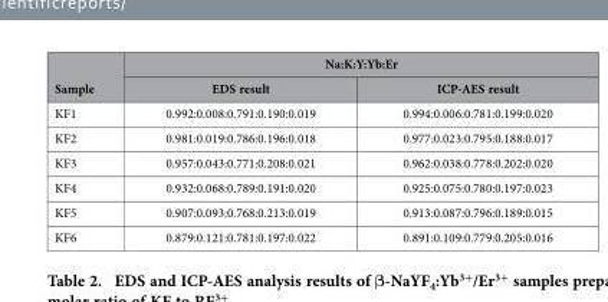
<table><thead><tr><td rowspan="2">Sample</td><td colspan="2">Na:K:Y:Yb:Er</td></tr><tr><td>EDS result</td><td>ICP-AES result</td></tr></thead><tbody><tr><td>KF1</td><td>0.992:0.008:0.791:0.190:0.019</td><td>0.994:0.006:0.781:0.199:0.020</td></tr><tr><td>KF2</td><td>0.981:0.019:0.786:0.196:0.018</td><td>0.977:0.023:0.795:0.188:0.017</td></tr><tr><td>KF3</td><td>0.957:0.043:0.771:0.208:0.021</td><td>0.962:0.038:0.778:0.202:0.020</td></tr><tr><td>KF4</td><td>0.932:0.068:0.789:0.191:0.020</td><td>0.925:0.075:0.780:0.197:0.023</td></tr><tr><td>KF5</td><td>0.907:0.093:0.768:0.213:0.019</td><td>0.913:0.087:0.796:0.189:0.015</td></tr><tr><td>KF6</td><td>0.879:0.121:0.781:0.197:0.022</td><td>0.891:0.109:0.779:0.205:0.016</td></tr></tbody></table>